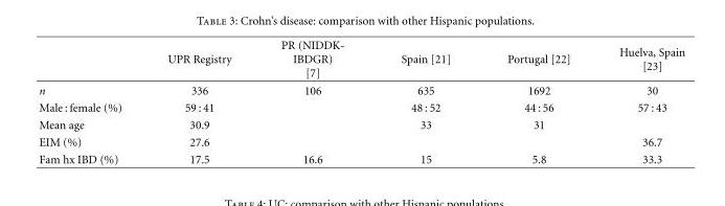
<table><thead><tr><td></td><td>UPR Registry</td><td>PR (NIDDK- IBDGR) [7]</td><td>Spain [21]</td><td>Portugal [22]</td><td>Huelva, Spain [23]</td></tr></thead><tbody><tr><td>n</td><td>336</td><td>106</td><td>635</td><td>1692</td><td>30</td></tr><tr><td>Male : female (%)</td><td>59 : 41</td><td></td><td>48 : 52</td><td>44 : 56</td><td>57 : 43</td></tr><tr><td>Mean age</td><td>30.9</td><td></td><td>33</td><td>31</td><td></td></tr><tr><td>EIM (%)</td><td>27.6</td><td></td><td></td><td></td><td>36.7</td></tr><tr><td>Fam hx IBD (%)</td><td>17.5</td><td>16.6</td><td>15</td><td>5.8</td><td>33.3</td></tr></tbody></table>